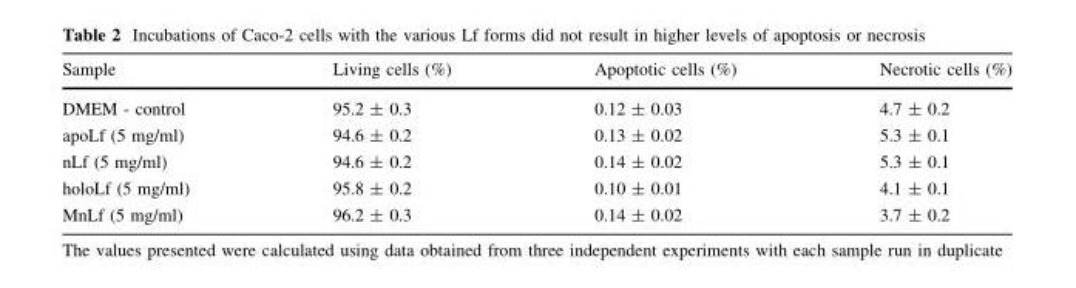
<table><thead><tr><td>Sample</td><td>Living cells (%)</td><td>Apoptotic cells (%)</td><td>Necrotic cells (%)</td></tr></thead><tbody><tr><td>DMEM - control</td><td>95.2 ± 0.3</td><td>0.12 ± 0.03</td><td>4.7 ± 0.2</td></tr><tr><td>apoLf (5 mg/ml)</td><td>94.6 ± 0.2</td><td>0.13 ± 0.02</td><td>5.3 ± 0.1</td></tr><tr><td>nLf (5 mg/ml)</td><td>94.6 ± 0.2</td><td>0.14 ± 0.02</td><td>5.3 ± 0.1</td></tr><tr><td>holoLf (5 mg/ml)</td><td>95.8 ± 0.2</td><td>0.10 ± 0.01</td><td>4.1 ± 0.1</td></tr><tr><td>MnLf (5 mg/ml)</td><td>96.2 ± 0.3</td><td>0.14 ± 0.02</td><td>3.7 ± 0.2</td></tr></tbody></table>